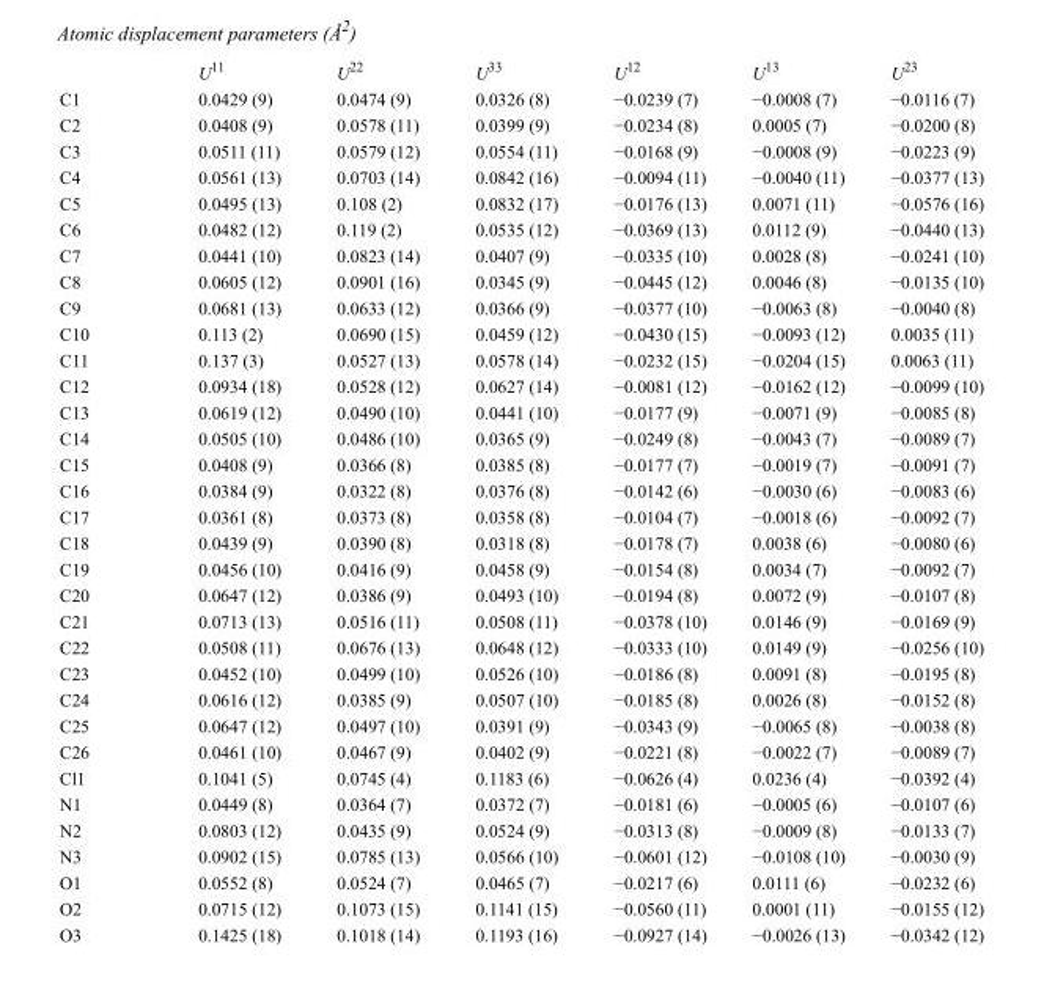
<table><thead><tr><td></td><td>U<sup>11</sup></td><td>U<sup>22</sup></td><td>U<sup>33</sup></td><td>U<sup>12</sup></td><td>U<sup>13</sup></td><td>U<sup>23</sup></td></tr></thead><tbody><tr><td>C1</td><td>0.0429 (9)</td><td>0.0474 (9)</td><td>0.0326 (8)</td><td>−0.0239 (7)</td><td>−0.0008 (7)</td><td>−0.0116 (7)</td></tr><tr><td>C2</td><td>0.0408 (9)</td><td>0.0578 (11)</td><td>0.0399 (9)</td><td>−0.0234 (8)</td><td>0.0005 (7)</td><td>−0.0200 (8)</td></tr><tr><td>C3</td><td>0.0511 (11)</td><td>0.0579 (12)</td><td>0.0554 (11)</td><td>−0.0168 (9)</td><td>−0.0008 (9)</td><td>−0.0223 (9)</td></tr><tr><td>C4</td><td>0.0561 (13)</td><td>0.0703 (14)</td><td>0.0842 (16)</td><td>−0.0094 (11)</td><td>−0.0040 (11)</td><td>−0.0377 (13)</td></tr><tr><td>C5</td><td>0.0495 (13)</td><td>0.108 (2)</td><td>0.0832 (17)</td><td>−0.0176 (13)</td><td>0.0071 (11)</td><td>−0.0576 (16)</td></tr><tr><td>C6</td><td>0.0482 (12)</td><td>0.119 (2)</td><td>0.0535 (12)</td><td>−0.0369 (13)</td><td>0.0112 (9)</td><td>−0.0440 (13)</td></tr><tr><td>C7</td><td>0.0441 (10)</td><td>0.0823 (14)</td><td>0.0407 (9)</td><td>−0.0335 (10)</td><td>0.0028 (8)</td><td>−0.0241 (10)</td></tr><tr><td>C8</td><td>0.0605 (12)</td><td>0.0901 (16)</td><td>0.0345 (9)</td><td>−0.0445 (12)</td><td>0.0046 (8)</td><td>−0.0135 (10)</td></tr><tr><td>C9</td><td>0.0681 (13)</td><td>0.0633 (12)</td><td>0.0366 (9)</td><td>−0.0377 (10)</td><td>−0.0063 (8)</td><td>−0.0040 (8)</td></tr><tr><td>C10</td><td>0.113 (2)</td><td>0.0690 (15)</td><td>0.0459 (12)</td><td>−0.0430 (15)</td><td>−0.0093 (12)</td><td>0.0035 (11)</td></tr><tr><td>C11</td><td>0.137 (3)</td><td>0.0527 (13)</td><td>0.0578 (14)</td><td>−0.0232 (15)</td><td>−0.0204 (15)</td><td>0.0063 (11)</td></tr><tr><td>C12</td><td>0.0934 (18)</td><td>0.0528 (12)</td><td>0.0627 (14)</td><td>−0.0081 (12)</td><td>−0.0162 (12)</td><td>−0.0099 (10)</td></tr><tr><td>C13</td><td>0.0619 (12)</td><td>0.0490 (10)</td><td>0.0441 (10)</td><td>−0.0177 (9)</td><td>−0.0071 (9)</td><td>−0.0085 (8)</td></tr><tr><td>C14</td><td>0.0505 (10)</td><td>0.0486 (10)</td><td>0.0365 (9)</td><td>−0.0249 (8)</td><td>−0.0043 (7)</td><td>−0.0089 (7)</td></tr><tr><td>C15</td><td>0.0408 (9)</td><td>0.0366 (8)</td><td>0.0385 (8)</td><td>−0.0177 (7)</td><td>−0.0019 (7)</td><td>−0.0091 (7)</td></tr><tr><td>C16</td><td>0.0384 (9)</td><td>0.0322 (8)</td><td>0.0376 (8)</td><td>−0.0142 (6)</td><td>−0.0030 (6)</td><td>−0.0083 (6)</td></tr><tr><td>C17</td><td>0.0361 (8)</td><td>0.0373 (8)</td><td>0.0358 (8)</td><td>−0.0104 (7)</td><td>−0.0018 (6)</td><td>−0.0092 (7)</td></tr><tr><td>C18</td><td>0.0439 (9)</td><td>0.0390 (8)</td><td>0.0318 (8)</td><td>−0.0178 (7)</td><td>0.0038 (6)</td><td>−0.0080 (6)</td></tr><tr><td>C19</td><td>0.0456 (10)</td><td>0.0416 (9)</td><td>0.0458 (9)</td><td>−0.0154 (8)</td><td>0.0034 (7)</td><td>−0.0092 (7)</td></tr><tr><td>C20</td><td>0.0647 (12)</td><td>0.0386 (9)</td><td>0.0493 (10)</td><td>−0.0194 (8)</td><td>0.0072 (9)</td><td>−0.0107 (8)</td></tr><tr><td>C21</td><td>0.0713 (13)</td><td>0.0516 (11)</td><td>0.0508 (11)</td><td>−0.0378 (10)</td><td>0.0146 (9)</td><td>−0.0169 (9)</td></tr><tr><td>C22</td><td>0.0508 (11)</td><td>0.0676 (13)</td><td>0.0648 (12)</td><td>−0.0333 (10)</td><td>0.0149 (9)</td><td>−0.0256 (10)</td></tr><tr><td>C23</td><td>0.0452 (10)</td><td>0.0499 (10)</td><td>0.0526 (10)</td><td>−0.0186 (8)</td><td>0.0091 (8)</td><td>−0.0195 (8)</td></tr><tr><td>C24</td><td>0.0616 (12)</td><td>0.0385 (9)</td><td>0.0507 (10)</td><td>−0.0185 (8)</td><td>0.0026 (8)</td><td>−0.0152 (8)</td></tr><tr><td>C25</td><td>0.0647 (12)</td><td>0.0497 (10)</td><td>0.0391 (9)</td><td>−0.0343 (9)</td><td>−0.0065 (8)</td><td>−0.0038 (8)</td></tr><tr><td>C26</td><td>0.0461 (10)</td><td>0.0467 (9)</td><td>0.0402 (9)</td><td>−0.0221 (8)</td><td>−0.0022 (7)</td><td>−0.0089 (7)</td></tr><tr><td>Cl1</td><td>0.1041 (5)</td><td>0.0745 (4)</td><td>0.1183 (6)</td><td>−0.0626 (4)</td><td>0.0236 (4)</td><td>−0.0392 (4)</td></tr><tr><td>N1</td><td>0.0449 (8)</td><td>0.0364 (7)</td><td>0.0372 (7)</td><td>−0.0181 (6)</td><td>−0.0005 (6)</td><td>−0.0107 (6)</td></tr><tr><td>N2</td><td>0.0803 (12)</td><td>0.0435 (9)</td><td>0.0524 (9)</td><td>−0.0313 (8)</td><td>−0.0009 (8)</td><td>−0.0133 (7)</td></tr><tr><td>N3</td><td>0.0902 (15)</td><td>0.0785 (13)</td><td>0.0566 (10)</td><td>−0.0601 (12)</td><td>−0.0108 (10)</td><td>−0.0030 (9)</td></tr><tr><td>O1</td><td>0.0552 (8)</td><td>0.0524 (7)</td><td>0.0465 (7)</td><td>−0.0217 (6)</td><td>0.0111 (6)</td><td>−0.0232 (6)</td></tr><tr><td>O2</td><td>0.0715 (12)</td><td>0.1073 (15)</td><td>0.1141 (15)</td><td>−0.0560 (11)</td><td>0.0001 (11)</td><td>−0.0155 (12)</td></tr><tr><td>O3</td><td>0.1425 (18)</td><td>0.1018 (14)</td><td>0.1193 (16)</td><td>−0.0927 (14)</td><td>−0.0026 (13)</td><td>−0.0342 (12)</td></tr></tbody></table>